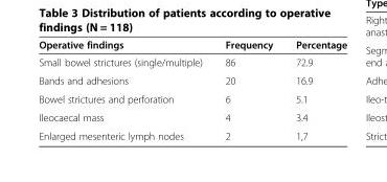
<table><thead><tr><td>Operative findings</td><td>Frequency</td><td>Percentage</td></tr></thead><tbody><tr><td>Small bowel strictures (single/multiple)</td><td>86</td><td>72.9</td></tr><tr><td>Bands and adhesions</td><td>20</td><td>16.9</td></tr><tr><td>Bowel strictures and perforation</td><td>6</td><td>5.1</td></tr><tr><td>Ileocaecal mass</td><td>4</td><td>3.4</td></tr><tr><td>Enlarged mesenteric lymph nodes</td><td>2</td><td>1,7</td></tr></tbody></table>